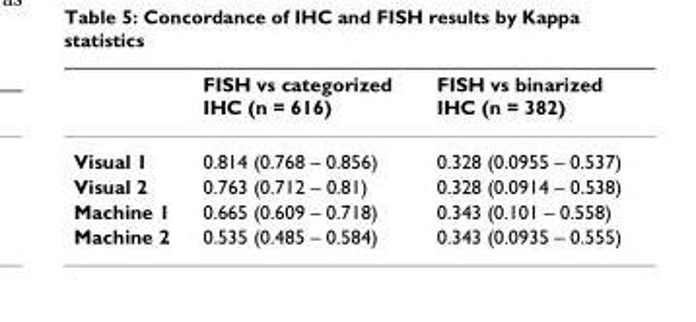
<table><thead><tr><td></td><td>FISH vs categorized IHC (n = 616)</td><td>FISH vs binarized IHC (n = 382)</td></tr></thead><tbody><tr><td>Visual 1</td><td>0.814 (0.768 – 0.856)</td><td>0.328 (0.0955 – 0.537)</td></tr><tr><td>Visual 2</td><td>0.763 (0.712 – 0.81)</td><td>0.328 (0.0914 – 0.538)</td></tr><tr><td>Machine 1</td><td>0.665 (0.609 – 0.718)</td><td>0.343 (0.101 – 0.558)</td></tr><tr><td>Machine 2</td><td>0.535 (0.485 – 0.584)</td><td>0.343 (0.0935 – 0.555)</td></tr></tbody></table>